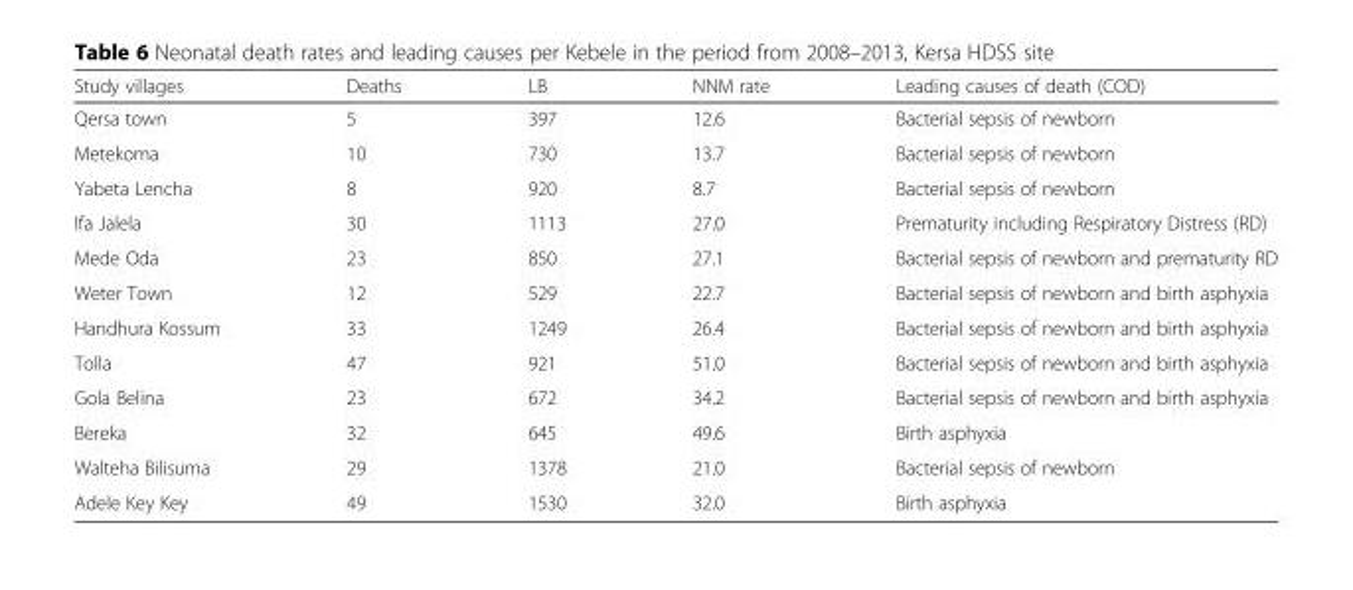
<table><thead><tr><td>Study villages</td><td>Deaths</td><td>LB</td><td>NNM rate</td><td>Leading causes of death (COD)</td></tr></thead><tbody><tr><td>Qersa town</td><td>5</td><td>397</td><td>12.6</td><td>Bacterial sepsis of newborn</td></tr><tr><td>Metekoma</td><td>10</td><td>730</td><td>13.7</td><td>Bacterial sepsis of newborn</td></tr><tr><td>Yabeta Lencha</td><td>8</td><td>920</td><td>8.7</td><td>Bacterial sepsis of newborn</td></tr><tr><td>Ifa Jalela</td><td>30</td><td>1113</td><td>27.0</td><td>Prematurity including Respiratory Distress (RD)</td></tr><tr><td>Mede Oda</td><td>23</td><td>850</td><td>27.1</td><td>Bacterial sepsis of newborn and prematurity RD</td></tr><tr><td>Weter Town</td><td>12</td><td>529</td><td>22.7</td><td>Bacterial sepsis of newborn and birth asphyxia</td></tr><tr><td>Handhura Kossum</td><td>33</td><td>1249</td><td>26.4</td><td>Bacterial sepsis of newborn and birth asphyxia</td></tr><tr><td>Tolla</td><td>47</td><td>921</td><td>51.0</td><td>Bacterial sepsis of newborn and birth asphyxia</td></tr><tr><td>Gola Belina</td><td>23</td><td>672</td><td>34.2</td><td>Bacterial sepsis of newborn and birth asphyxia</td></tr><tr><td>Bereka</td><td>32</td><td>645</td><td>49.6</td><td>Birth asphyxia</td></tr><tr><td>Walteha Bilisuma</td><td>29</td><td>1378</td><td>21.0</td><td>Bacterial sepsis of newborn</td></tr><tr><td>Adele Key Key</td><td>49</td><td>1530</td><td>32.0</td><td>Birth asphyxia</td></tr></tbody></table>